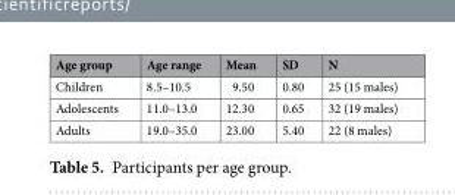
<table><thead><tr><td>Age group</td><td>Age range</td><td>Mean</td><td>SD</td><td>N</td></tr></thead><tbody><tr><td>Children</td><td>8.5–10.5</td><td>9.50</td><td>0.80</td><td>25 (15 males)</td></tr><tr><td>Adolescents</td><td>11.0–13.0</td><td>12.30</td><td>0.65</td><td>32 (19 males)</td></tr><tr><td>Adults</td><td>19.0–35.0</td><td>23.00</td><td>5.40</td><td>22 (8 males)</td></tr></tbody></table>